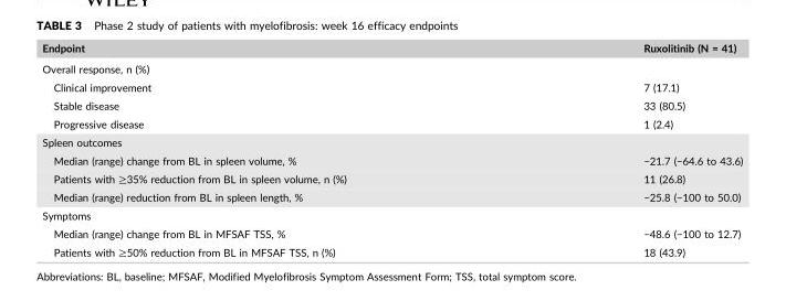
<table><thead><tr><td>Endpoint</td><td>Ruxolitinib (N = 41)</td></tr></thead><tbody><tr><td colspan="2">Overall response, n (%)</td></tr><tr><td>Clinical improvement</td><td>7 (17.1)</td></tr><tr><td>Stable disease</td><td>33 (80.5)</td></tr><tr><td>Progressive disease</td><td>1 (2.4)</td></tr><tr><td colspan="2">Spleen outcomes</td></tr><tr><td>Median (range) change from BL in spleen volume, %</td><td>−21.7 (−64.6 to 43.6)</td></tr><tr><td>Patients with ≥35% reduction from BL in spleen volume, n (%)</td><td>11 (26.8)</td></tr><tr><td>Median (range) reduction from BL in spleen length, %</td><td>−25.8 (−100 to 50.0)</td></tr><tr><td colspan="2">Symptoms</td></tr><tr><td>Median (range) change from BL in MFSAF TSS, %</td><td>−48.6 (−100 to 12.7)</td></tr><tr><td>Patients with ≥50% reduction from BL in MFSAF TSS, n (%)</td><td>18 (43.9)</td></tr></tbody></table>